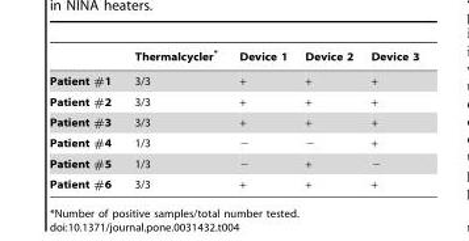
<table><thead><tr><td></td><td>Thermalcycler*</td><td>Device 1</td><td>Device 2</td><td>Device 3</td></tr></thead><tbody><tr><td>Patient #1</td><td>3/3</td><td>+</td><td>+</td><td>+</td></tr><tr><td>Patient #2</td><td>3/3</td><td>+</td><td>+</td><td>+</td></tr><tr><td>Patient #3</td><td>3/3</td><td>+</td><td>+</td><td>+</td></tr><tr><td>Patient #4</td><td>1/3</td><td>−</td><td>−</td><td>+</td></tr><tr><td>Patient #5</td><td>1/3</td><td>−</td><td>+</td><td>−</td></tr><tr><td>Patient #6</td><td>3/3</td><td>+</td><td>+</td><td>+</td></tr></tbody></table>